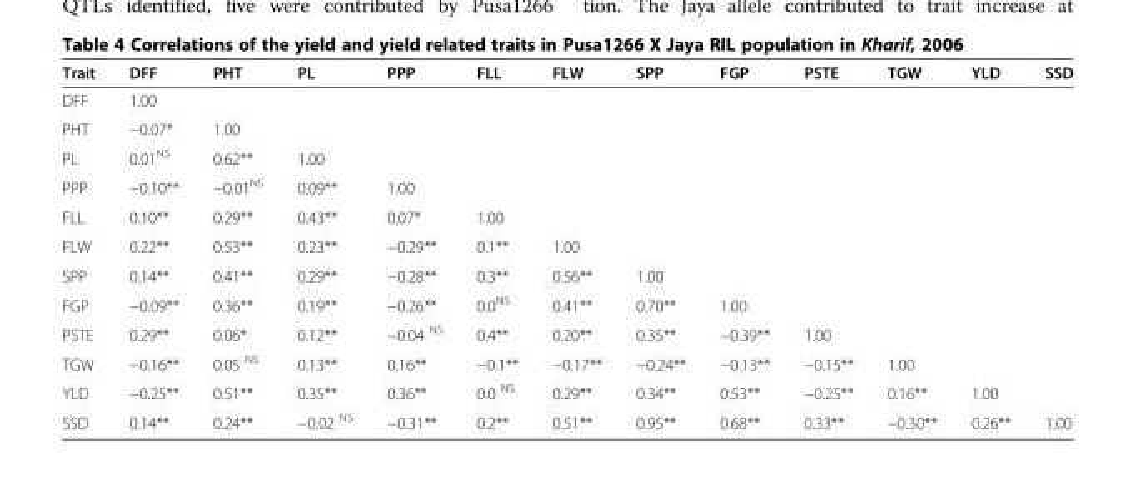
<table><thead><tr><td>Trait</td><td>DFF</td><td>PHT</td><td>PL</td><td>PPP</td><td>FLL</td><td>FLW</td><td>SPP</td><td>FGP</td><td>PSTE</td><td>TGW</td><td>YLD</td><td>SSD</td></tr></thead><tbody><tr><td>DFF</td><td>1.00</td><td></td><td></td><td></td><td></td><td></td><td></td><td></td><td></td><td></td><td></td><td></td></tr><tr><td>PHT</td><td>−0.07*</td><td>1.00</td><td></td><td></td><td></td><td></td><td></td><td></td><td></td><td></td><td></td><td></td></tr><tr><td>PL</td><td>0.01<sup>NS</sup></td><td>0.62**</td><td>1.00</td><td></td><td></td><td></td><td></td><td></td><td></td><td></td><td></td><td></td></tr><tr><td>PPP</td><td>−0.10**</td><td>−0.01<sup>NS</sup></td><td>0.09**</td><td>1.00</td><td></td><td></td><td></td><td></td><td></td><td></td><td></td><td></td></tr><tr><td>FLL</td><td>0.10**</td><td>0.29**</td><td>0.43**</td><td>0.07*</td><td>1.00</td><td></td><td></td><td></td><td></td><td></td><td></td><td></td></tr><tr><td>FLW</td><td>0.22**</td><td>0.53**</td><td>0.23**</td><td>−0.29**</td><td>0.1**</td><td>1.00</td><td></td><td></td><td></td><td></td><td></td><td></td></tr><tr><td>SPP</td><td>0.14**</td><td>0.41**</td><td>0.29**</td><td>−0.28**</td><td>0.3**</td><td>0.56**</td><td>1.00</td><td></td><td></td><td></td><td></td><td></td></tr><tr><td>FGP</td><td>−0.09**</td><td>0.36**</td><td>0.19**</td><td>−0.26**</td><td>0.0<sup>NS</sup></td><td>0.41**</td><td>0.70**</td><td>1.00</td><td></td><td></td><td></td><td></td></tr><tr><td>PSTE</td><td>0.29**</td><td>0.06*</td><td>0.12**</td><td>−0.04 <sup>NS</sup></td><td>0.4**</td><td>0.20**</td><td>0.35**</td><td>−0.39**</td><td>1.00</td><td></td><td></td><td></td></tr><tr><td>TGW</td><td>−0.16**</td><td>0.05 <sup>NS</sup></td><td>0.13**</td><td>0.16**</td><td>−0.1**</td><td>−0.17**</td><td>−0.24**</td><td>−0.13**</td><td>−0.15**</td><td>1.00</td><td></td><td></td></tr><tr><td>YLD</td><td>−0.25**</td><td>0.51**</td><td>0.35**</td><td>0.36**</td><td>0.0 <sup>NS</sup></td><td>0.29**</td><td>0.34**</td><td>0.53**</td><td>−0.25**</td><td>0.16**</td><td>1.00</td><td></td></tr><tr><td>SSD</td><td>0.14**</td><td>0.24**</td><td>−0.02 <sup>NS</sup></td><td>−0.31**</td><td>0.2**</td><td>0.51**</td><td>0.95**</td><td>0.68**</td><td>0.33**</td><td>−0.30**</td><td>0.26**</td><td>1.00</td></tr></tbody></table>